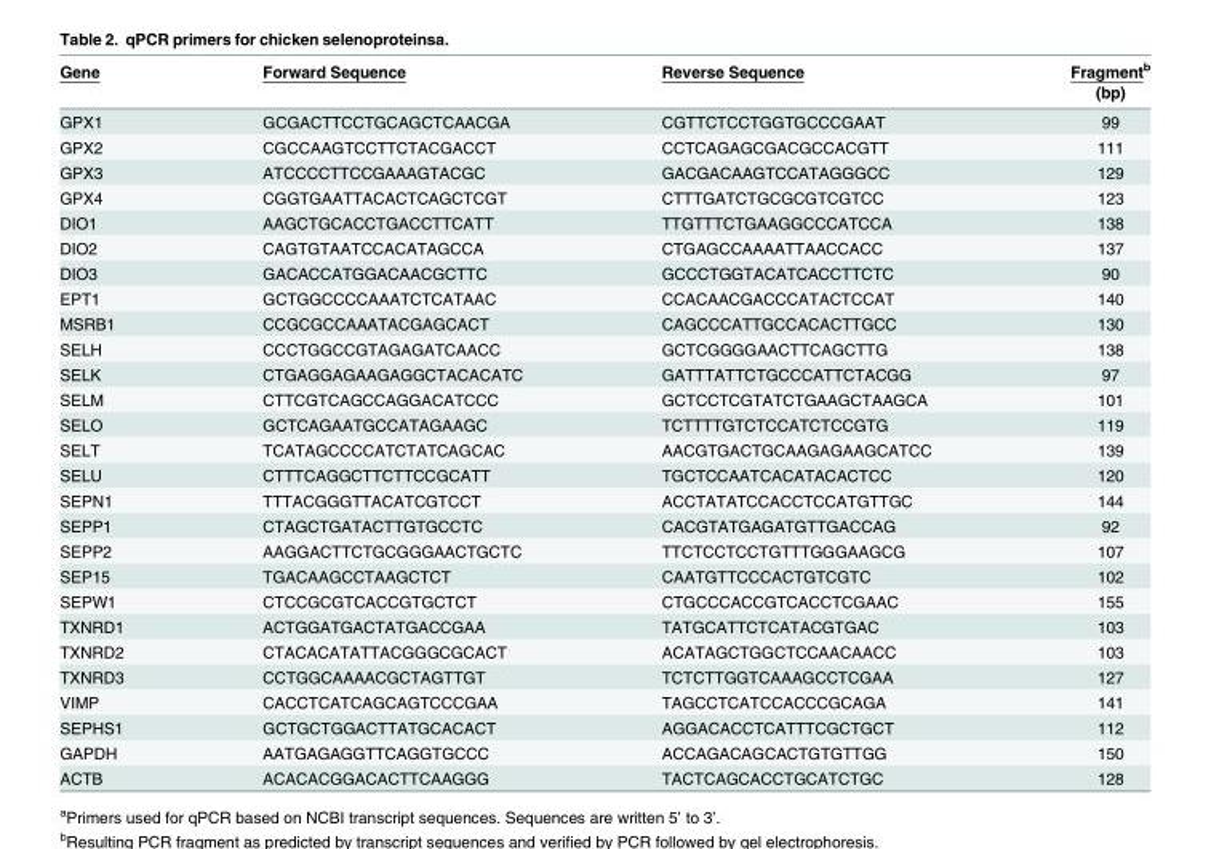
<table><thead><tr><td rowspan="2">Gene</td><td rowspan="2">Forward Sequence</td><td rowspan="2">Reverse Sequence</td><td rowspan="2">Fragment<sup>b</sup> (bp)</td></tr><tr></tr></thead><tbody><tr><td>GPX1</td><td>GCGACTTCCTGCAGCTCAACGA</td><td>CGTTCTCCTGGTGCCCGAAT</td><td>99</td></tr><tr><td>GPX2</td><td>CGCCAAGTCCTTCTACGACCT</td><td>CCTCAGAGCGACGCCACGTT</td><td>111</td></tr><tr><td>GPX3</td><td>ATCCCCTTCCGAAAGTACGC</td><td>GACGACAAGTCCATAGGGCC</td><td>129</td></tr><tr><td>GPX4</td><td>CGGTGAATTACACTCAGCTCGT</td><td>CTTTGATCTGCGCGTCGTCC</td><td>123</td></tr><tr><td>DIO1</td><td>AAGCTGCACCTGACCTTCATT</td><td>TTGTTTCTGAAGGCCCATCCA</td><td>138</td></tr><tr><td>DIO2</td><td>CAGTGTAATCCACATAGCCA</td><td>CTGAGCCAAAATTAACCACC</td><td>137</td></tr><tr><td>DIO3</td><td>GACACCATGGACAACGCTTC</td><td>GCCCTGGTACATCACCTTCTC</td><td>90</td></tr><tr><td>EPT1</td><td>GCTGGCCCCAAATCTCATAAC</td><td>CCACAACGACCCATACTCCAT</td><td>140</td></tr><tr><td>MSRB1</td><td>CCGCGCCAAATACGAGCACT</td><td>CAGCCCATTGCCACACTTGCC</td><td>130</td></tr><tr><td>SELH</td><td>CCCTGGCCGTAGAGATCAACC</td><td>GCTCGGGGAACTTCAGCTTG</td><td>138</td></tr><tr><td>SELK</td><td>CTGAGGAGAAGAGGCTACACATC</td><td>GATTTATTCTGCCCATTCTACGG</td><td>97</td></tr><tr><td>SELM</td><td>CTTCGTCAGCCAGGACATCCC</td><td>GCTCCTCGTATCTGAAGCTAAGCA</td><td>101</td></tr><tr><td>SELO</td><td>GCTCAGAATGCCATAGAAGC</td><td>TCTTTTGTCTCCATCTCCGTG</td><td>119</td></tr><tr><td>SELT</td><td>TCATAGCCCCATCTATCAGCAC</td><td>AACGTGACTGCAAGAGAAGCATCC</td><td>139</td></tr><tr><td>SELU</td><td>CTTTCAGGCTTCTTCCGCATT</td><td>TGCTCCAATCACATACACTCC</td><td>120</td></tr><tr><td>SEPN1</td><td>TTTACGGGTTACATCGTCCT</td><td>ACCTATATCCACCTCCATGTTGC</td><td>144</td></tr><tr><td>SEPP1</td><td>CTAGCTGATACTTGTGCCTC</td><td>CACGTATGAGATGTTGACCAG</td><td>92</td></tr><tr><td>SEPP2</td><td>AAGGACTTCTGCGGGAACTGCTC</td><td>TTCTCCTCCTGTTTGGGAAGCG</td><td>107</td></tr><tr><td>SEP15</td><td>TGACAAGCCTAAGCTCT</td><td>CAATGTTCCCACTGTCGTC</td><td>102</td></tr><tr><td>SEPW1</td><td>CTCCGCGTCACCGTGCTCT</td><td>CTGCCCACCGTCACCTCGAAC</td><td>155</td></tr><tr><td>TXNRD1</td><td>ACTGGATGACTATGACCGAA</td><td>TATGCATTCTCATACGTGAC</td><td>103</td></tr><tr><td>TXNRD2</td><td>CTACACATATTACGGGCGCACT</td><td>ACATAGCTGGCTCCAACAACC</td><td>103</td></tr><tr><td>TXNRD3</td><td>CCTGGCAAAACGCTAGTTGT</td><td>TCTCTTGGTCAAAGCCTCGAA</td><td>127</td></tr><tr><td>VIMP</td><td>CACCTCATCAGCAGTCCCGAA</td><td>TAGCCTCATCCACCCGCAGA</td><td>141</td></tr><tr><td>SEPHS1</td><td>GCTGCTGGACTTATGCACACT</td><td>AGGACACCTCATTTCGCTGCT</td><td>112</td></tr><tr><td>GAPDH</td><td>AATGAGAGGTTCAGGTGCCC</td><td>ACCAGACAGCACTGTGTTGG</td><td>150</td></tr><tr><td>ACTB</td><td>ACACACGGACACTTCAAGGG</td><td>TACTCAGCACCTGCATCTGC</td><td>128</td></tr></tbody></table>